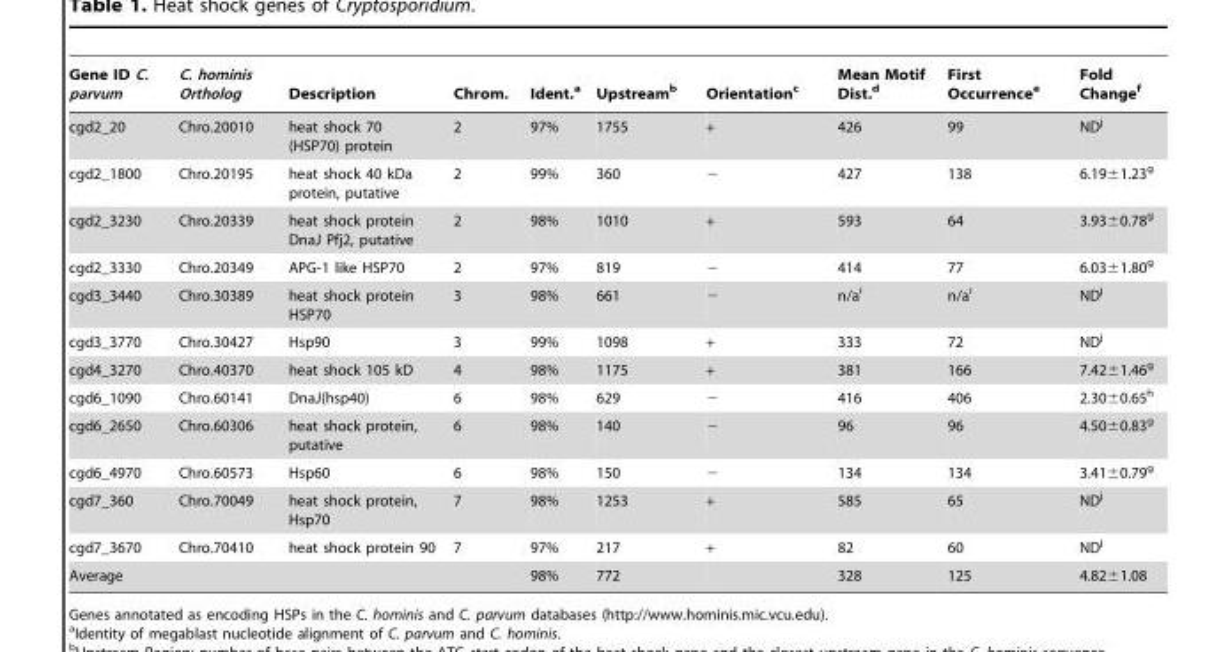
<table><thead><tr><td>Gene ID C. parvum</td><td>C. hominis Ortholog</td><td>Description</td><td>Chrom.</td><td>Ident.<sup>a</sup></td><td>Upstream<sup>b</sup></td><td>Orientation<sup>c</sup></td><td>Mean Motif Dist.<sup>d</sup></td><td>First Occurrence<sup>e</sup></td><td>Fold Change<sup>f</sup></td></tr></thead><tbody><tr><td>cgd2_20</td><td>Chro.20010</td><td>heat shock 70 (HSP70) protein</td><td>2</td><td>97%</td><td>1755</td><td>+</td><td>426</td><td>99</td><td>ND<sup>j</sup></td></tr><tr><td>cgd2_1800</td><td>Chro.20195</td><td>heat shock 40 kDa protein, putative</td><td>2</td><td>99%</td><td>360</td><td>−</td><td>427</td><td>138</td><td>6.19±1.23<sup>g</sup></td></tr><tr><td>cgd2_3230</td><td>Chro.20339</td><td>heat shock protein DnaJ Pfj2, putative</td><td>2</td><td>98%</td><td>1010</td><td>+</td><td>593</td><td>64</td><td>3.93±0.78<sup>g</sup></td></tr><tr><td>cgd2_3330</td><td>Chro.20349</td><td>APG-1 like HSP70</td><td>2</td><td>97%</td><td>819</td><td>−</td><td>414</td><td>77</td><td>6.03±1.80<sup>g</sup></td></tr><tr><td>cgd3_3440</td><td>Chro.30389</td><td>heat shock protein HSP70</td><td>3</td><td>98%</td><td>661</td><td>−</td><td>n/a<sup>i</sup></td><td>n/a<sup>i</sup></td><td>ND<sup>j</sup></td></tr><tr><td>cgd3_3770</td><td>Chro.30427</td><td>Hsp90</td><td>3</td><td>99%</td><td>1098</td><td>+</td><td>333</td><td>72</td><td>ND<sup>j</sup></td></tr><tr><td>cgd4_3270</td><td>Chro.40370</td><td>heat shock 105 kD</td><td>4</td><td>98%</td><td>1175</td><td>+</td><td>381</td><td>166</td><td>7.42±1.46<sup>g</sup></td></tr><tr><td>cgd6_1090</td><td>Chro.60141</td><td>DnaJ(hsp40)</td><td>6</td><td>98%</td><td>629</td><td>−</td><td>416</td><td>406</td><td>2.30±0.65<sup>h</sup></td></tr><tr><td>cgd6_2650</td><td>Chro.60306</td><td>heat shock protein, putative</td><td>6</td><td>98%</td><td>140</td><td>−</td><td>96</td><td>96</td><td>4.50±0.83<sup>g</sup></td></tr><tr><td>cgd6_4970</td><td>Chro.60573</td><td>Hsp60</td><td>6</td><td>98%</td><td>150</td><td>−</td><td>134</td><td>134</td><td>3.41±0.79<sup>g</sup></td></tr><tr><td>cgd7_360</td><td>Chro.70049</td><td>heat shock protein, Hsp70</td><td>7</td><td>98%</td><td>1253</td><td>+</td><td>585</td><td>65</td><td>ND<sup>j</sup></td></tr><tr><td>cgd7_3670</td><td>Chro.70410</td><td>heat shock protein 90</td><td>7</td><td>97%</td><td>217</td><td>+</td><td>82</td><td>60</td><td>ND<sup>j</sup></td></tr><tr><td>Average</td><td></td><td></td><td></td><td>98%</td><td>772</td><td></td><td>328</td><td>125</td><td>4.82±1.08</td></tr></tbody></table>